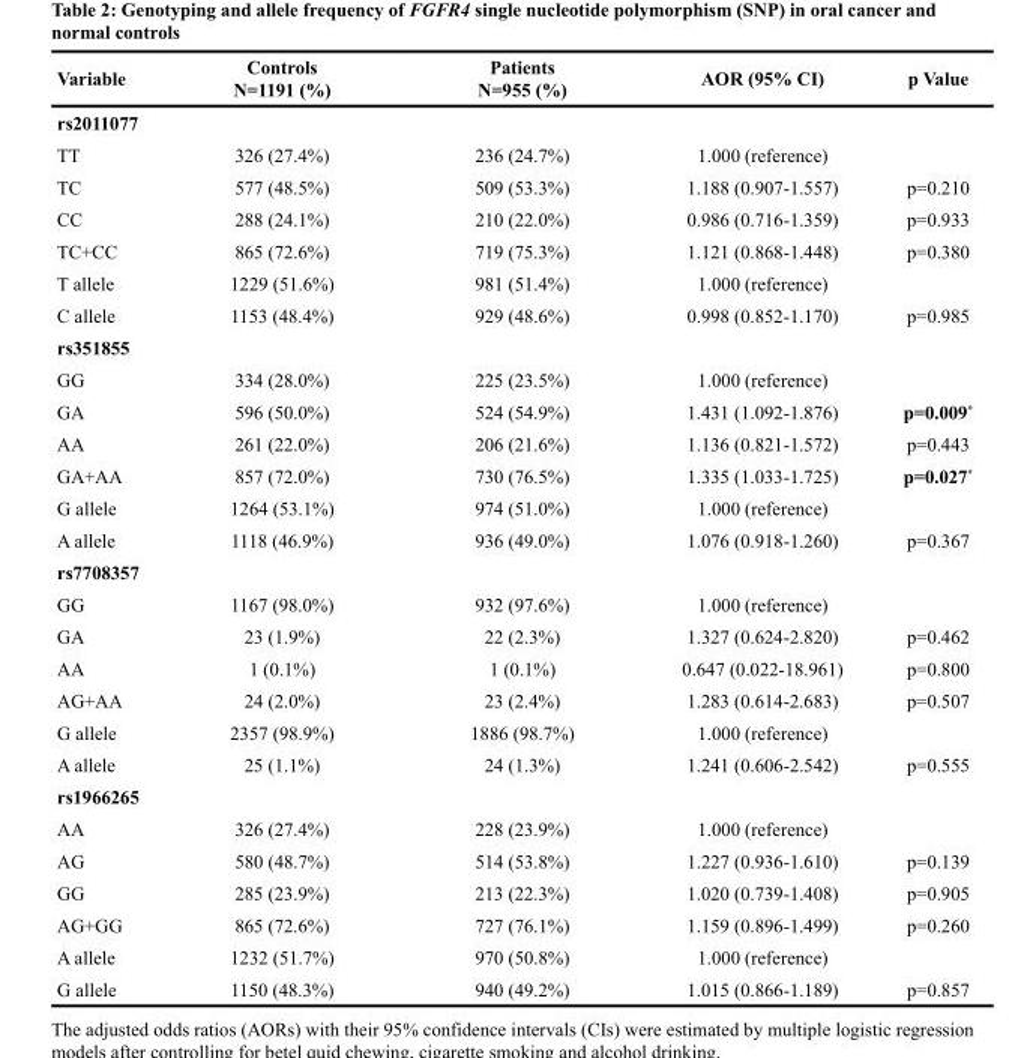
<table><thead><tr><td>Variable</td><td>Controls N=1191 (%)</td><td>Patients N=955 (%)</td><td>AOR (95% CI)</td><td>p Value</td></tr></thead><tbody><tr><td colspan="5">rs2011077</td></tr><tr><td>TT</td><td>326 (27.4%)</td><td>236 (24.7%)</td><td>1.000 (reference)</td><td></td></tr><tr><td>TC</td><td>577 (48.5%)</td><td>509 (53.3%)</td><td>1.188 (0.907-1.557)</td><td>p=0.210</td></tr><tr><td>CC</td><td>288 (24.1%)</td><td>210 (22.0%)</td><td>0.986 (0.716-1.359)</td><td>p=0.933</td></tr><tr><td>TC+CC</td><td>865 (72.6%)</td><td>719 (75.3%)</td><td>1.121 (0.868-1.448)</td><td>p=0.380</td></tr><tr><td>T allele</td><td>1229 (51.6%)</td><td>981 (51.4%)</td><td>1.000 (reference)</td><td></td></tr><tr><td>C allele</td><td>1153 (48.4%)</td><td>929 (48.6%)</td><td>0.998 (0.852-1.170)</td><td>p=0.985</td></tr><tr><td colspan="5">rs351855</td></tr><tr><td>GG</td><td>334 (28.0%)</td><td>225 (23.5%)</td><td>1.000 (reference)</td><td></td></tr><tr><td>GA</td><td>596 (50.0%)</td><td>524 (54.9%)</td><td>1.431 (1.092-1.876)</td><td>p=0.009*</td></tr><tr><td>AA</td><td>261 (22.0%)</td><td>206 (21.6%)</td><td>1.136 (0.821-1.572)</td><td>p=0.443</td></tr><tr><td>GA+AA</td><td>857 (72.0%)</td><td>730 (76.5%)</td><td>1.335 (1.033-1.725)</td><td>p=0.027*</td></tr><tr><td>G allele</td><td>1264 (53.1%)</td><td>974 (51.0%)</td><td>1.000 (reference)</td><td></td></tr><tr><td>A allele</td><td>1118 (46.9%)</td><td>936 (49.0%)</td><td>1.076 (0.918-1.260)</td><td>p=0.367</td></tr><tr><td colspan="5">rs7708357</td></tr><tr><td>GG</td><td>1167 (98.0%)</td><td>932 (97.6%)</td><td>1.000 (reference)</td><td></td></tr><tr><td>GA</td><td>23 (1.9%)</td><td>22 (2.3%)</td><td>1.327 (0.624-2.820)</td><td>p=0.462</td></tr><tr><td>AA</td><td>1 (0.1%)</td><td>1 (0.1%)</td><td>0.647 (0.022-18.961)</td><td>p=0.800</td></tr><tr><td>AG+AA</td><td>24 (2.0%)</td><td>23 (2.4%)</td><td>1.283 (0.614-2.683)</td><td>p=0.507</td></tr><tr><td>G allele</td><td>2357 (98.9%)</td><td>1886 (98.7%)</td><td>1.000 (reference)</td><td></td></tr><tr><td>A allele</td><td>25 (1.1%)</td><td>24 (1.3%)</td><td>1.241 (0.606-2.542)</td><td>p=0.555</td></tr><tr><td colspan="5">rs1966265</td></tr><tr><td>AA</td><td>326 (27.4%)</td><td>228 (23.9%)</td><td>1.000 (reference)</td><td></td></tr><tr><td>AG</td><td>580 (48.7%)</td><td>514 (53.8%)</td><td>1.227 (0.936-1.610)</td><td>p=0.139</td></tr><tr><td>GG</td><td>285 (23.9%)</td><td>213 (22.3%)</td><td>1.020 (0.739-1.408)</td><td>p=0.905</td></tr><tr><td>AG+GG</td><td>865 (72.6%)</td><td>727 (76.1%)</td><td>1.159 (0.896-1.499)</td><td>p=0.260</td></tr><tr><td>A allele</td><td>1232 (51.7%)</td><td>970 (50.8%)</td><td>1.000 (reference)</td><td></td></tr><tr><td>G allele</td><td>1150 (48.3%)</td><td>940 (49.2%)</td><td>1.015 (0.866-1.189)</td><td>p=0.857</td></tr></tbody></table>